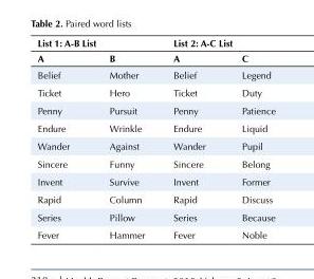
<table><tbody><tr><td colspan="2">List 1: A-B List</td><td colspan="2">List 2: A-C List</td></tr><tr><td>A</td><td>B</td><td>A</td><td>C</td></tr><tr><td>Belief</td><td>Mother</td><td>Belief</td><td>Legend</td></tr><tr><td>Ticket</td><td>Hero</td><td>Ticket</td><td>Duty</td></tr><tr><td>Penny</td><td>Pursuit</td><td>Penny</td><td>Patience</td></tr><tr><td>Endure</td><td>Wrinkle</td><td>Endure</td><td>Liquid</td></tr><tr><td>Wander</td><td>Against</td><td>Wander</td><td>Pupil</td></tr><tr><td>Sincere</td><td>Funny</td><td>Sincere</td><td>Belong</td></tr><tr><td>Invent</td><td>Survive</td><td>Invent</td><td>Former</td></tr><tr><td>Rapid</td><td>Column</td><td>Rapid</td><td>Discuss</td></tr><tr><td>Series</td><td>Pillow</td><td>Series</td><td>Because</td></tr><tr><td>Fever</td><td>Hammer</td><td>Fever</td><td>Noble</td></tr></tbody></table>